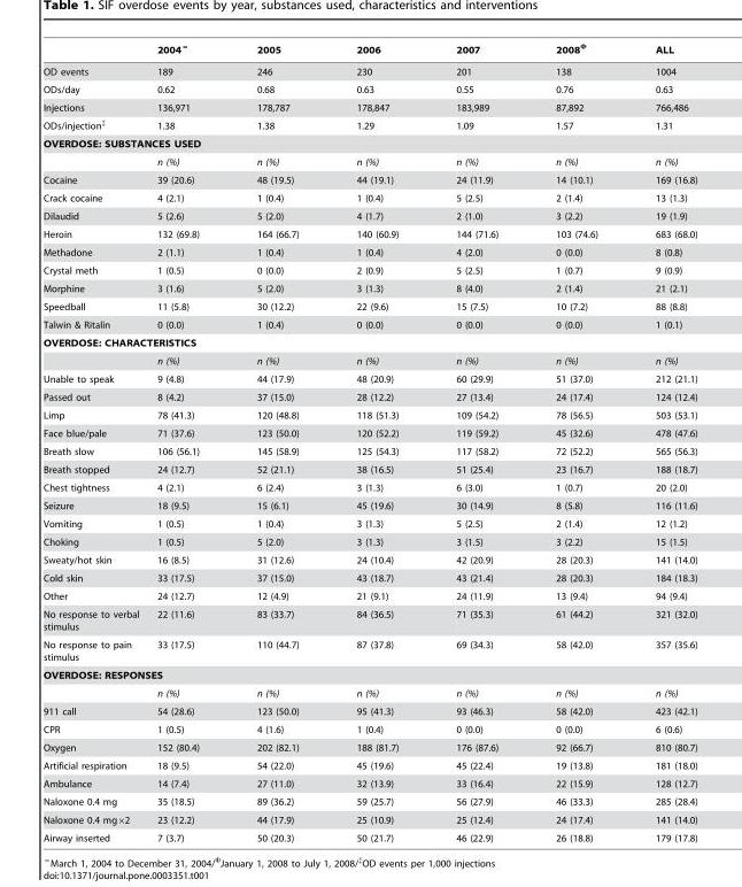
<table><thead><tr><td></td><td>2004 <sup>=</sup></td><td>2005</td><td>2006</td><td>2007</td><td>2008<sup>Φ</sup></td><td>ALL</td></tr></thead><tbody><tr><td>OD events</td><td>189</td><td>246</td><td>230</td><td>201</td><td>138</td><td>1004</td></tr><tr><td>ODs/day</td><td>0.62</td><td>0.68</td><td>0.63</td><td>0.55</td><td>0.76</td><td>0.63</td></tr><tr><td>Injections</td><td>136,971</td><td>178,787</td><td>178,847</td><td>183,989</td><td>87,892</td><td>766,486</td></tr><tr><td>ODs/injection<sup>‡</sup></td><td>1.38</td><td>1.38</td><td>1.29</td><td>1.09</td><td>1.57</td><td>1.31</td></tr><tr><td colspan="7">OVERDOSE: SUBSTANCES USED</td></tr><tr><td></td><td>n (%)</td><td>n (%)</td><td>n (%)</td><td>n (%)</td><td>n (%)</td><td>n (%)</td></tr><tr><td>Cocaine</td><td>39 (20.6)</td><td>48 (19.5)</td><td>44 (19.1)</td><td>24 (11.9)</td><td>14 (10.1)</td><td>169 (16.8)</td></tr><tr><td>Crack cocaine</td><td>4 (2.1)</td><td>1 (0.4)</td><td>1 (0.4)</td><td>5 (2.5)</td><td>2 (1.4)</td><td>13 (1.3)</td></tr><tr><td>Dilaudid</td><td>5 (2.6)</td><td>5 (2.0)</td><td>4 (1.7)</td><td>2 (1.0)</td><td>3 (2.2)</td><td>19 (1.9)</td></tr><tr><td>Heroin</td><td>132 (69.8)</td><td>164 (66.7)</td><td>140 (60.9)</td><td>144 (71.6)</td><td>103 (74.6)</td><td>683 (68.0)</td></tr><tr><td>Methadone</td><td>2 (1.1)</td><td>1 (0.4)</td><td>1 (0.4)</td><td>4 (2.0)</td><td>0 (0.0)</td><td>8 (0.8)</td></tr><tr><td>Crystal meth</td><td>1 (0.5)</td><td>0 (0.0)</td><td>2 (0.9)</td><td>5 (2.5)</td><td>1 (0.7)</td><td>9 (0.9)</td></tr><tr><td>Morphine</td><td>3 (1.6)</td><td>5 (2.0)</td><td>3 (1.3)</td><td>8 (4.0)</td><td>2 (1.4)</td><td>21 (2.1)</td></tr><tr><td>Speedball</td><td>11 (5.8)</td><td>30 (12.2)</td><td>22 (9.6)</td><td>15 (7.5)</td><td>10 (7.2)</td><td>88 (8.8)</td></tr><tr><td>Talwin &amp; Ritalin</td><td>0 (0.0)</td><td>1 (0.4)</td><td>0 (0.0)</td><td>0 (0.0)</td><td>0 (0.0)</td><td>1 (0.1)</td></tr><tr><td colspan="7">OVERDOSE: CHARACTERISTICS</td></tr><tr><td></td><td>n (%)</td><td>n (%)</td><td>n (%)</td><td>n (%)</td><td>n (%)</td><td>n (%)</td></tr><tr><td>Unable to speak</td><td>9 (4.8)</td><td>44 (17.9)</td><td>48 (20.9)</td><td>60 (29.9)</td><td>51 (37.0)</td><td>212 (21.1)</td></tr><tr><td>Passed out</td><td>8 (4.2)</td><td>37 (15.0)</td><td>28 (12.2)</td><td>27 (13.4)</td><td>24 (17.4)</td><td>124 (12.4)</td></tr><tr><td>Limp</td><td>78 (41.3)</td><td>120 (48.8)</td><td>118 (51.3)</td><td>109 (54.2)</td><td>78 (56.5)</td><td>503 (53.1)</td></tr><tr><td>Face blue/pale</td><td>71 (37.6)</td><td>123 (50.0)</td><td>120 (52.2)</td><td>119 (59.2)</td><td>45 (32.6)</td><td>478 (47.6)</td></tr><tr><td>Breath slow</td><td>106 (56.1)</td><td>145 (58.9)</td><td>125 (54.3)</td><td>117 (58.2)</td><td>72 (52.2)</td><td>565 (56.3)</td></tr><tr><td>Breath stopped</td><td>24 (12.7)</td><td>52 (21.1)</td><td>38 (16.5)</td><td>51 (25.4)</td><td>23 (16.7)</td><td>188 (18.7)</td></tr><tr><td>Chest tightness</td><td>4 (2.1)</td><td>6 (2.4)</td><td>3 (1.3)</td><td>6 (3.0)</td><td>1 (0.7)</td><td>20 (2.0)</td></tr><tr><td>Seizure</td><td>18 (9.5)</td><td>15 (6.1)</td><td>45 (19.6)</td><td>30 (14.9)</td><td>8 (5.8)</td><td>116 (11.6)</td></tr><tr><td>Vomiting</td><td>1 (0.5)</td><td>1 (0.4)</td><td>3 (1.3)</td><td>5 (2.5)</td><td>2 (1.4)</td><td>12 (1.2)</td></tr><tr><td>Choking</td><td>1 (0.5)</td><td>5 (2.0)</td><td>3 (1.3)</td><td>3 (1.5)</td><td>3 (2.2)</td><td>15 (1.5)</td></tr><tr><td>Sweaty/hot skin</td><td>16 (8.5)</td><td>31 (12.6)</td><td>24 (10.4)</td><td>42 (20.9)</td><td>28 (20.3)</td><td>141 (14.0)</td></tr><tr><td>Cold skin</td><td>33 (17.5)</td><td>37 (15.0)</td><td>43 (18.7)</td><td>43 (21.4)</td><td>28 (20.3)</td><td>184 (18.3)</td></tr><tr><td>Other</td><td>24 (12.7)</td><td>12 (4.9)</td><td>21 (9.1)</td><td>24 (11.9)</td><td>13 (9.4)</td><td>94 (9.4)</td></tr><tr><td>No response to verbal stimulus</td><td>22 (11.6)</td><td>83 (33.7)</td><td>84 (36.5)</td><td>71 (35.3)</td><td>61 (44.2)</td><td>321 (32.0)</td></tr><tr><td>No response to pain stimulus</td><td>33 (17.5)</td><td>110 (44.7)</td><td>87 (37.8)</td><td>69 (34.3)</td><td>58 (42.0)</td><td>357 (35.6)</td></tr><tr><td colspan="7">OVERDOSE: RESPONSES</td></tr><tr><td></td><td>n (%)</td><td>n (%)</td><td>n (%)</td><td>n (%)</td><td>n (%)</td><td>n (%)</td></tr><tr><td>911 call</td><td>54 (28.6)</td><td>123 (50.0)</td><td>95 (41.3)</td><td>93 (46.3)</td><td>58 (42.0)</td><td>423 (42.1)</td></tr><tr><td>CPR</td><td>1 (0.5)</td><td>4 (1.6)</td><td>1 (0.4)</td><td>0 (0.0)</td><td>0 (0.0)</td><td>6 (0.6)</td></tr><tr><td>Oxygen</td><td>152 (80.4)</td><td>202 (82.1)</td><td>188 (81.7)</td><td>176 (87.6)</td><td>92 (66.7)</td><td>810 (80.7)</td></tr><tr><td>Artificial respiration</td><td>18 (9.5)</td><td>54 (22.0)</td><td>45 (19.6)</td><td>45 (22.4)</td><td>19 (13.8)</td><td>181 (18.0)</td></tr><tr><td>Ambulance</td><td>14 (7.4)</td><td>27 (11.0)</td><td>32 (13.9)</td><td>33 (16.4)</td><td>22 (15.9)</td><td>128 (12.7)</td></tr><tr><td>Naloxone 0.4 mg</td><td>35 (18.5)</td><td>89 (36.2)</td><td>59 (25.7)</td><td>56 (27.9)</td><td>46 (33.3)</td><td>285 (28.4)</td></tr><tr><td>Naloxone 0.4 mg×2</td><td>23 (12.2)</td><td>44 (17.9)</td><td>25 (10.9)</td><td>25 (12.4)</td><td>24 (17.4)</td><td>141 (14.0)</td></tr><tr><td>Airway inserted</td><td>7 (3.7)</td><td>50 (20.3)</td><td>50 (21.7)</td><td>46 (22.9)</td><td>26 (18.8)</td><td>179 (17.8)</td></tr></tbody></table>